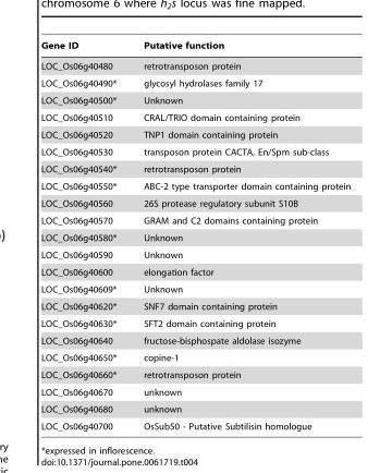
<table><thead><tr><td>Gene ID</td><td>Putative function</td></tr></thead><tbody><tr><td>LOC_Os06g40480</td><td>retrotransposon protein</td></tr><tr><td>LOC_Os06g40490*</td><td>glycosyl hydrolases family 17</td></tr><tr><td>LOC_Os06g40500*</td><td>Unknown</td></tr><tr><td>LOC_Os06g40510</td><td>CRAL/TRIO domain containing protein</td></tr><tr><td>LOC_Os06g40520</td><td>TNP1 domain containing protein</td></tr><tr><td>LOC_Os06g40530</td><td>transposon protein CACTA, En/Spm sub-class</td></tr><tr><td>LOC_Os06g40540*</td><td>retrotransposon protein</td></tr><tr><td>LOC_Os06g40550*</td><td>ABC-2 type transporter domain containing protein</td></tr><tr><td>LOC_Os06g40560</td><td>26S protease regulatory subunit S10B</td></tr><tr><td>LOC_Os06g40570</td><td>GRAM and C2 domains containing protein</td></tr><tr><td>LOC_Os06g40580*</td><td>Unknown</td></tr><tr><td>LOC_Os06g40590</td><td>Unknown</td></tr><tr><td>LOC_Os06g40600</td><td>elongation factor</td></tr><tr><td>LOC_Os06g40609*</td><td>Unknown</td></tr><tr><td>LOC_Os06g40620*</td><td>SNF7 domain containing protein</td></tr><tr><td>LOC_Os06g40630*</td><td>SFT2 domain containing protein</td></tr><tr><td>LOC_Os06g40640</td><td>fructose-bisphospate aldolase isozyme</td></tr><tr><td>LOC_Os06g40650*</td><td>copine-1</td></tr><tr><td>LOC_Os06g40660*</td><td>retrotransposon protein</td></tr><tr><td>LOC_Os06g40670</td><td>unknown</td></tr><tr><td>LOC_Os06g40680</td><td>unknown</td></tr><tr><td>LOC_Os06g40700</td><td>OsSub50 - Putative Subtilisin homologue</td></tr></tbody></table>